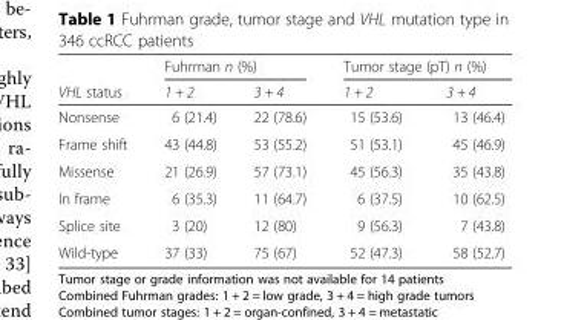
<table><thead><tr><td rowspan="2">VHL status</td><td colspan="2">Fuhrman n (%)</td><td colspan="2">Tumor stage (pT) n (%)</td></tr><tr><td>1 + 2</td><td>3 + 4</td><td>1 + 2</td><td>3 + 4</td></tr></thead><tbody><tr><td>Nonsense</td><td>6 (21.4)</td><td>22 (78.6)</td><td>15 (53.6)</td><td>13 (46.4)</td></tr><tr><td>Frame shift</td><td>43 (44.8)</td><td>53 (55.2)</td><td>51 (53.1)</td><td>45 (46.9)</td></tr><tr><td>Missense</td><td>21 (26.9)</td><td>57 (73.1)</td><td>45 (56.3)</td><td>35 (43.8)</td></tr><tr><td>In frame</td><td>6 (35.3)</td><td>11 (64.7)</td><td>6 (37.5)</td><td>10 (62.5)</td></tr><tr><td>Splice site</td><td>3 (20)</td><td>12 (80)</td><td>9 (56.3)</td><td>7 (43.8)</td></tr><tr><td>Wild-type</td><td>37 (33)</td><td>75 (67)</td><td>52 (47.3)</td><td>58 (52.7)</td></tr></tbody></table>